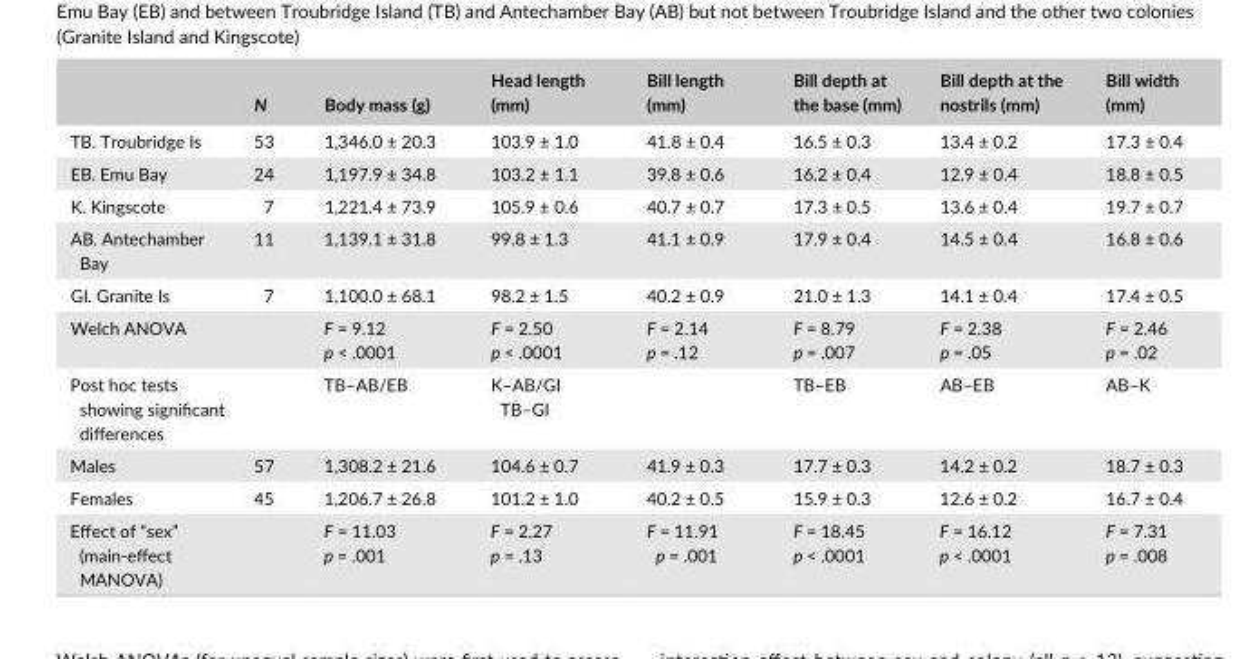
<table><thead><tr><td></td><td>N</td><td>Body mass (g)</td><td>Head length (mm)</td><td>Bill length (mm)</td><td>Bill depth at the base (mm)</td><td>Bill depth at the nostrils (mm)</td><td>Bill width (mm)</td></tr></thead><tbody><tr><td>TB. Troubridge Is</td><td>53</td><td>1,346.0 ± 20.3</td><td>103.9 ± 1.0</td><td>41.8 ± 0.4</td><td>16.5 ± 0.3</td><td>13.4 ± 0.2</td><td>17.3 ± 0.4</td></tr><tr><td>EB. Emu Bay</td><td>24</td><td>1,197.9 ± 34.8</td><td>103.2 ± 1.1</td><td>39.8 ± 0.6</td><td>16.2 ± 0.4</td><td>12.9 ± 0.4</td><td>18.8 ± 0.5</td></tr><tr><td>K. Kingscote</td><td>7</td><td>1,221.4 ± 73.9</td><td>105.9 ± 0.6</td><td>40.7 ± 0.7</td><td>17.3 ± 0.5</td><td>13.6 ± 0.4</td><td>19.7 ± 0.7</td></tr><tr><td>AB. Antechamber Bay</td><td>11</td><td>1,139.1 ± 31.8</td><td>99.8 ± 1.3</td><td>41.1 ± 0.9</td><td>17.9 ± 0.4</td><td>14.5 ± 0.4</td><td>16.8 ± 0.6</td></tr><tr><td>GI. Granite Is</td><td>7</td><td>1,100.0 ± 68.1</td><td>98.2 ± 1.5</td><td>40.2 ± 0.9</td><td>21.0 ± 1.3</td><td>14.1 ± 0.4</td><td>17.4 ± 0.5</td></tr><tr><td>Welch ANOVA</td><td></td><td>F = 9.12 p &lt; .0001</td><td>F = 2.50 p &lt; .0001</td><td>F = 2.14 p = .12</td><td>F = 8.79 p = .007</td><td>F = 2.38 p = .05</td><td>F = 2.46 p = .02</td></tr><tr><td>Post hoc tests showing significant differences</td><td></td><td>TB–AB/EB</td><td>K–AB/GI TB–GI</td><td></td><td>TB–EB</td><td>AB–EB</td><td>AB–K</td></tr><tr><td>Males</td><td>57</td><td>1,308.2 ± 21.6</td><td>104.6 ± 0.7</td><td>41.9 ± 0.3</td><td>17.7 ± 0.3</td><td>14.2 ± 0.2</td><td>18.7 ± 0.3</td></tr><tr><td>Females</td><td>45</td><td>1,206.7 ± 26.8</td><td>101.2 ± 1.0</td><td>40.2 ± 0.5</td><td>15.9 ± 0.3</td><td>12.6 ± 0.2</td><td>16.7 ± 0.4</td></tr><tr><td>Effect of “sex” (main- effect MANOVA)</td><td></td><td>F = 11.03 p = .001</td><td>F = 2.27 p = .13</td><td>F = 11.91 p = .001</td><td>F = 18.45 p &lt; .0001</td><td>F = 16.12 p &lt; .0001</td><td>F = 7.31 p = .008</td></tr></tbody></table>